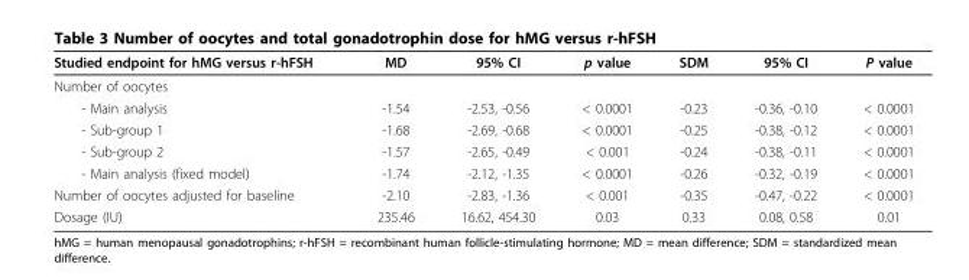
<table><thead><tr><td>Studied endpoint for hMG versus r-hFSH</td><td>MD</td><td>95% CI</td><td>p value</td><td>SDM</td><td>95% CI</td><td>P value</td></tr></thead><tbody><tr><td colspan="7">Number of oocytes</td></tr><tr><td>- Main analysis</td><td>-1.54</td><td>-2.53, -0.56</td><td>&lt; 0.0001</td><td>-0.23</td><td>-0.36, -0.10</td><td>&lt; 0.0001</td></tr><tr><td>- Sub-group 1</td><td>-1.68</td><td>-2.69, -0.68</td><td>&lt; 0.0001</td><td>-0.25</td><td>-0.38, -0.12</td><td>&lt; 0.0001</td></tr><tr><td>- Sub-group 2</td><td>-1.57</td><td>-2.65, -0.49</td><td>&lt; 0.001</td><td>-0.24</td><td>-0.38, -0.11</td><td>&lt; 0.0001</td></tr><tr><td>- Main analysis (fixed model)</td><td>-1.74</td><td>-2.12, -1.35</td><td>&lt; 0.0001</td><td>-0.26</td><td>-0.32, -0.19</td><td>&lt; 0.0001</td></tr><tr><td>Number of oocytes adjusted for baseline</td><td>-2.10</td><td>-2.83, -1.36</td><td>&lt; 0.001</td><td>-0.35</td><td>-0.47, -0.22</td><td>&lt; 0.0001</td></tr><tr><td>Dosage (IU)</td><td>235.46</td><td>16.62, 454.30</td><td>0.03</td><td>0.33</td><td>0.08, 0.58</td><td>0.01</td></tr></tbody></table>